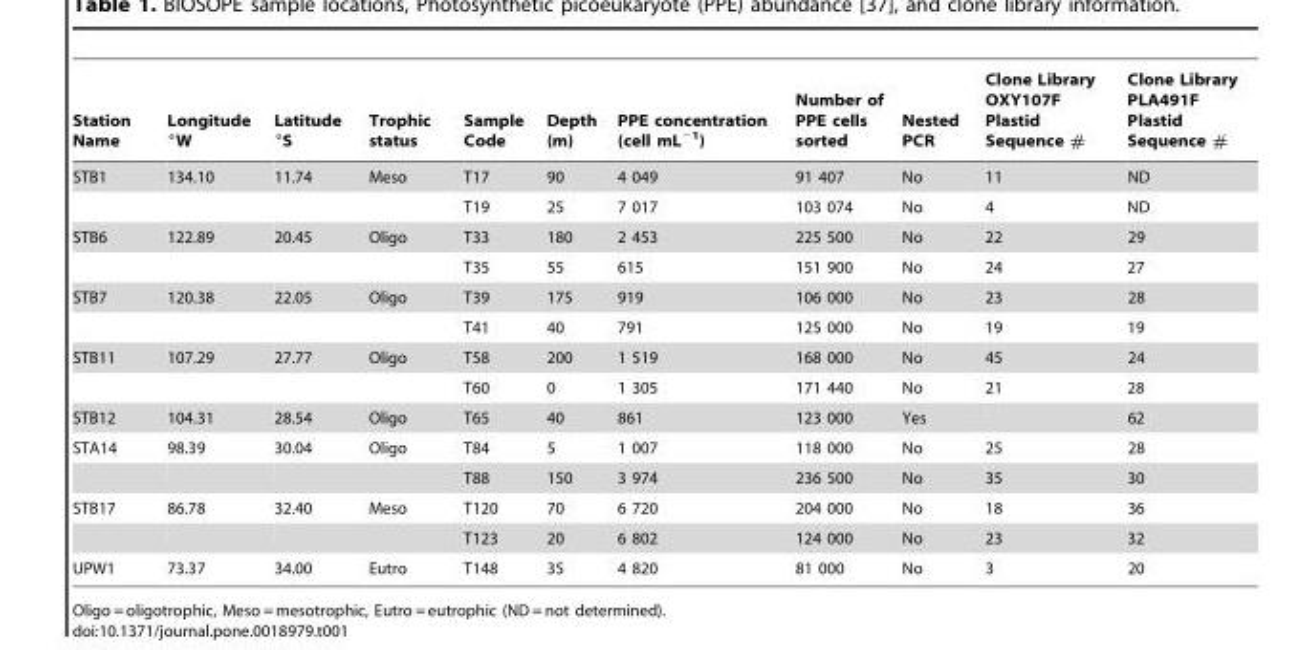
<table><thead><tr><td>Station Name</td><td>Longitude °W</td><td>Latitude °S</td><td>Trophic status</td><td>Sample Code</td><td>Depth (m)</td><td>PPE concentration (cell mL<sup>−1</sup>)</td><td>Number of PPE cells sorted</td><td>Nested PCR</td><td>Clone Library OXY107F Plastid Sequence #</td><td>Clone Library PLA491F Plastid Sequence #</td></tr></thead><tbody><tr><td rowspan="2">STB1</td><td>134.10</td><td>11.74</td><td>Meso</td><td>T17</td><td>90</td><td>4 049</td><td>91 407</td><td>No</td><td>11</td><td>ND</td></tr><tr><td></td><td></td><td></td><td>T19</td><td>25</td><td>7 017</td><td>103 074</td><td>No</td><td>4</td><td>ND</td></tr><tr><td rowspan="2">STB6</td><td>122.89</td><td>20.45</td><td>Oligo</td><td>T33</td><td>180</td><td>2 453</td><td>225 500</td><td>No</td><td>22</td><td>29</td></tr><tr><td></td><td></td><td></td><td>T35</td><td>55</td><td>615</td><td>151 900</td><td>No</td><td>24</td><td>27</td></tr><tr><td rowspan="2">STB7</td><td>120.38</td><td>22.05</td><td>Oligo</td><td>T39</td><td>175</td><td>919</td><td>106 000</td><td>No</td><td>23</td><td>28</td></tr><tr><td></td><td></td><td></td><td>T41</td><td>40</td><td>791</td><td>125 000</td><td>No</td><td>19</td><td>19</td></tr><tr><td rowspan="2">STB11</td><td>107.29</td><td>27.77</td><td>Oligo</td><td>T58</td><td>200</td><td>1 519</td><td>168 000</td><td>No</td><td>45</td><td>24</td></tr><tr><td></td><td></td><td></td><td>T60</td><td>0</td><td>1 305</td><td>171 440</td><td>No</td><td>21</td><td>28</td></tr><tr><td>STB12</td><td>104.31</td><td>28.54</td><td>Oligo</td><td>T65</td><td>40</td><td>861</td><td>123 000</td><td>Yes</td><td></td><td>62</td></tr><tr><td rowspan="2">STA14</td><td>98.39</td><td>30.04</td><td>Oligo</td><td>T84</td><td>5</td><td>1 007</td><td>118 000</td><td>No</td><td>25</td><td>28</td></tr><tr><td></td><td></td><td></td><td>T88</td><td>150</td><td>3 974</td><td>236 500</td><td>No</td><td>35</td><td>30</td></tr><tr><td rowspan="2">STB17</td><td>86.78</td><td>32.40</td><td>Meso</td><td>T120</td><td>70</td><td>6 720</td><td>204 000</td><td>No</td><td>18</td><td>36</td></tr><tr><td></td><td></td><td></td><td>T123</td><td>20</td><td>6 802</td><td>124 000</td><td>No</td><td>23</td><td>32</td></tr><tr><td>UPW1</td><td>73.37</td><td>34.00</td><td>Eutro</td><td>T148</td><td>35</td><td>4 820</td><td>81 000</td><td>No</td><td>3</td><td>20</td></tr></tbody></table>